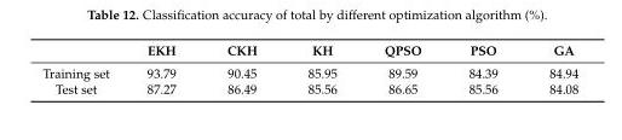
<table><thead><tr><td></td><td>EKH</td><td>CKH</td><td>KH</td><td>QPSO</td><td>PSO</td><td>GA</td></tr></thead><tbody><tr><td>Training set</td><td>93.79</td><td>90.45</td><td>85.95</td><td>89.59</td><td>84.39</td><td>84.94</td></tr><tr><td>Test set</td><td>87.27</td><td>86.49</td><td>85.56</td><td>86.65</td><td>85.56</td><td>84.08</td></tr></tbody></table>